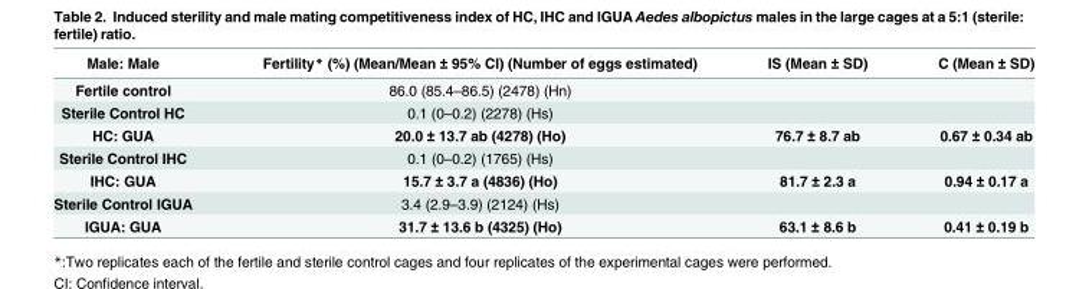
<table><thead><tr><td>Male: Male</td><td>Fertility* (%) (Mean/Mean ± 95% CI) (Number of eggs estimated)</td><td>IS (Mean ± SD)</td><td>C (Mean ± SD)</td></tr></thead><tbody><tr><td>Fertile control</td><td>86.0 (85.4–86.5) (2478) (Hn)</td><td></td><td></td></tr><tr><td>Sterile Control HC</td><td>0.1 (0–0.2) (2278) (Hs)</td><td></td><td></td></tr><tr><td>HC: GUA</td><td>20.0 ± 13.7 ab (4278) (Ho)</td><td>76.7 ± 8.7 ab</td><td>0.67 ± 0.34 ab</td></tr><tr><td>Sterile Control IHC</td><td>0.1 (0–0.2) (1765) (Hs)</td><td></td><td></td></tr><tr><td>IHC: GUA</td><td>15.7 ± 3.7 a (4836) (Ho)</td><td>81.7 ± 2.3 a</td><td>0.94 ± 0.17 a</td></tr><tr><td>Sterile Control IGUA</td><td>3.4 (2.9–3.9) (2124) (Hs)</td><td></td><td></td></tr><tr><td>IGUA: GUA</td><td>31.7 ± 13.6 b (4325) (Ho)</td><td>63.1 ± 8.6 b</td><td>0.41 ± 0.19 b</td></tr></tbody></table>